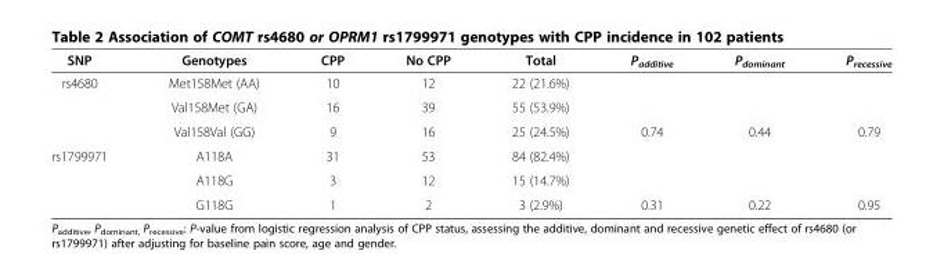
<table><thead><tr><td>SNP</td><td>Genotypes</td><td>CPP</td><td>No CPP</td><td>Total</td><td>P<sub>additive</sub></td><td>P<sub>dominant</sub></td><td>P<sub>recessive</sub></td></tr></thead><tbody><tr><td rowspan="3">rs4680</td><td>Met158Met (AA)</td><td>10</td><td>12</td><td>22 (21.6%)</td><td></td><td></td><td></td></tr><tr><td>Val158Met (GA)</td><td>16</td><td>39</td><td>55 (53.9%)</td><td></td><td></td><td></td></tr><tr><td>Val158Val (GG)</td><td>9</td><td>16</td><td>25 (24.5%)</td><td>0.74</td><td>0.44</td><td>0.79</td></tr><tr><td rowspan="3">rs1799971</td><td>A118A</td><td>31</td><td>53</td><td>84 (82.4%)</td><td></td><td></td><td></td></tr><tr><td>A118G</td><td>3</td><td>12</td><td>15 (14.7%)</td><td></td><td></td><td></td></tr><tr><td>G118G</td><td>1</td><td>2</td><td>3 (2.9%)</td><td>0.31</td><td>0.22</td><td>0.95</td></tr></tbody></table>